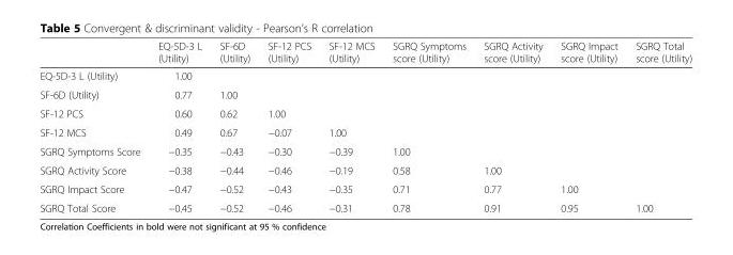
<table><thead><tr><td></td><td>EQ-5D-3 L (Utility)</td><td>SF-6D (Utility)</td><td>SF-12 PCS (Utility)</td><td>SF-12 MCS (Utility)</td><td>SGRQ Symptoms score (Utility)</td><td>SGRQ Activity score (Utility)</td><td>SGRQ Impact score (Utility)</td><td>SGRQ Total score (Utility)</td></tr></thead><tbody><tr><td>EQ-5D-3 L (Utility)</td><td>1.00</td><td></td><td></td><td></td><td></td><td></td><td></td><td></td></tr><tr><td>SF-6D (Utility)</td><td>0.77</td><td>1.00</td><td></td><td></td><td></td><td></td><td></td><td></td></tr><tr><td>SF-12 PCS</td><td>0.60</td><td>0.62</td><td>1.00</td><td></td><td></td><td></td><td></td><td></td></tr><tr><td>SF-12 MCS</td><td>0.49</td><td>0.67</td><td>−0.07</td><td>1.00</td><td></td><td></td><td></td><td></td></tr><tr><td>SGRQ Symptoms Score</td><td>−0.35</td><td>−0.43</td><td>−0.30</td><td>−0.39</td><td>1.00</td><td></td><td></td><td></td></tr><tr><td>SGRQ Activity Score</td><td>−0.38</td><td>−0.44</td><td>−0.46</td><td>−0.19</td><td>0.58</td><td>1.00</td><td></td><td></td></tr><tr><td>SGRQ Impact Score</td><td>−0.47</td><td>−0.52</td><td>−0.43</td><td>−0.35</td><td>0.71</td><td>0.77</td><td>1.00</td><td></td></tr><tr><td>SGRQ Total Score</td><td>−0.45</td><td>−0.52</td><td>−0.46</td><td>−0.31</td><td>0.78</td><td>0.91</td><td>0.95</td><td>1.00</td></tr></tbody></table>